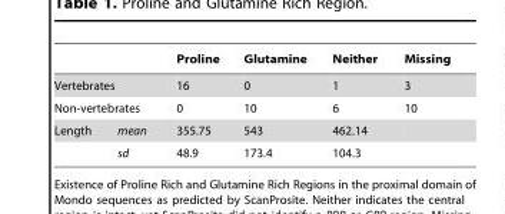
<table><thead><tr><td></td><td></td><td>Proline</td><td>Glutamine</td><td>Neither</td><td>Missing</td></tr></thead><tbody><tr><td colspan="2">Vertebrates</td><td>16</td><td>0</td><td>1</td><td>3</td></tr><tr><td colspan="2">Non-vertebrates</td><td>0</td><td>10</td><td>6</td><td>10</td></tr><tr><td rowspan="2">Length</td><td>mean</td><td>355.75</td><td>543</td><td>462.14</td><td></td></tr><tr><td>sd</td><td>48.9</td><td>173.4</td><td>104.3</td><td></td></tr></tbody></table>